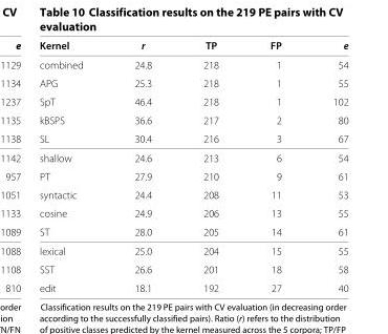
<table><thead><tr><td>Kernel</td><td>r</td><td>TP</td><td>FP</td><td>e</td></tr></thead><tbody><tr><td>combined</td><td>24.8</td><td>218</td><td>1</td><td>54</td></tr><tr><td>APG</td><td>25.3</td><td>218</td><td>1</td><td>55</td></tr><tr><td>SpT</td><td>46.4</td><td>218</td><td>1</td><td>102</td></tr><tr><td>kBSPS</td><td>36.6</td><td>217</td><td>2</td><td>80</td></tr><tr><td>SL</td><td>30.4</td><td>216</td><td>3</td><td>67</td></tr><tr><td>shallow</td><td>24.6</td><td>213</td><td>6</td><td>54</td></tr><tr><td>PT</td><td>27.9</td><td>210</td><td>9</td><td>61</td></tr><tr><td>syntactic</td><td>24.4</td><td>208</td><td>11</td><td>53</td></tr><tr><td>cosine</td><td>24.9</td><td>206</td><td>13</td><td>55</td></tr><tr><td>ST</td><td>28.0</td><td>205</td><td>14</td><td>61</td></tr><tr><td>lexical</td><td>25.0</td><td>204</td><td>15</td><td>55</td></tr><tr><td>SST</td><td>26.6</td><td>201</td><td>18</td><td>58</td></tr><tr><td>edit</td><td>18.1</td><td>192</td><td>27</td><td>40</td></tr></tbody></table>